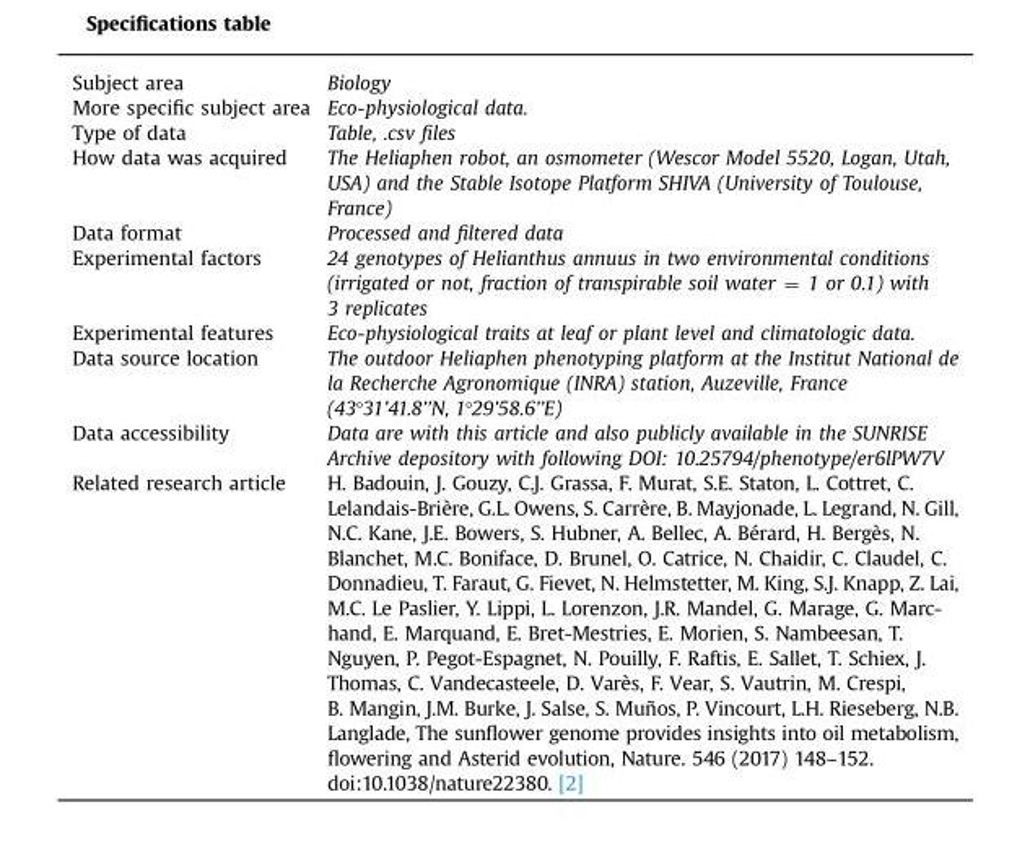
<table><tbody><tr><td>Subject area</td><td>Biology</td></tr><tr><td>More specific subject area</td><td>Eco-physiological data.</td></tr><tr><td>Type of data</td><td>Table, .csv files</td></tr><tr><td>How data was acquired</td><td>The Heliaphen robot, an osmometer (Wescor Model 5520, Logan, Utah, USA) and the Stable Isotope Platform SHIVA (University of Toulouse, France)</td></tr><tr><td>Data format</td><td>Processed and filtered data</td></tr><tr><td>Experimental factors</td><td>24 genotypes of Helianthus annuus in two environmental conditions (irrigated or not, fraction of transpirable soil water = 1 or 0.1) with 3 replicates</td></tr><tr><td>Experimental features</td><td>Eco-physiological traits at leaf or plant level and climatologic data.</td></tr><tr><td>Data source location</td><td>The outdoor Heliaphen phenotyping platform at the Institut National de la Recherche Agronomique (INRA) station, Auzeville, France (43°31’41.8’’N, 1°29’58.6’’E)</td></tr><tr><td>Data accessibility</td><td>Data are with this article and also publicly available in the SUNRISE Archive depository with following DOI: 10.25794/phenotype/er6lPW7V</td></tr><tr><td>Related research article</td><td>H. Badouin, J. Gouzy, C.J. Grassa, F. Murat, S.E. Staton, L. Cottret, C. Lelandais-Brière, G.L. Owens, S. Carrère, B. Mayjonade, L. Legrand, N. Gill, N.C. Kane, J.E. Bowers, S. Hubner, A. Bellec, A. Bérard, H. Bergès, N. Blanchet, M.C. Boniface, D. Brunel, O. Catrice, N. Chaidir, C. Claudel, C. Donnadieu, T. Faraut, G. Fievet, N. Helmstetter, M. King, S.J. Knapp, Z. Lai, M.C. Le Paslier, Y. Lippi, L. Lorenzon, J.R. Mandel, G. Marage, G. Marc- hand, E. Marquand, E. Bret-Mestries, E. Morien, S. Nambeesan, T. Nguyen, P. Pegot-Espagnet, N. Pouilly, F. Raftis, E. Sallet, T. Schiex, J. Thomas, C. Vandecasteele, D. Varès, F. Vear, S. Vautrin, M. Crespi, B. Mangin, J.M. Burke, J. Salse, S. Muños, P. Vincourt, L.H. Rieseberg, N.B. Langlade, The sunflower genome provides insights into oil metabolism, flowering and Asterid evolution, Nature. 546 (2017) 148–152. doi:10.1038/nature22380. [2]</td></tr></tbody></table>